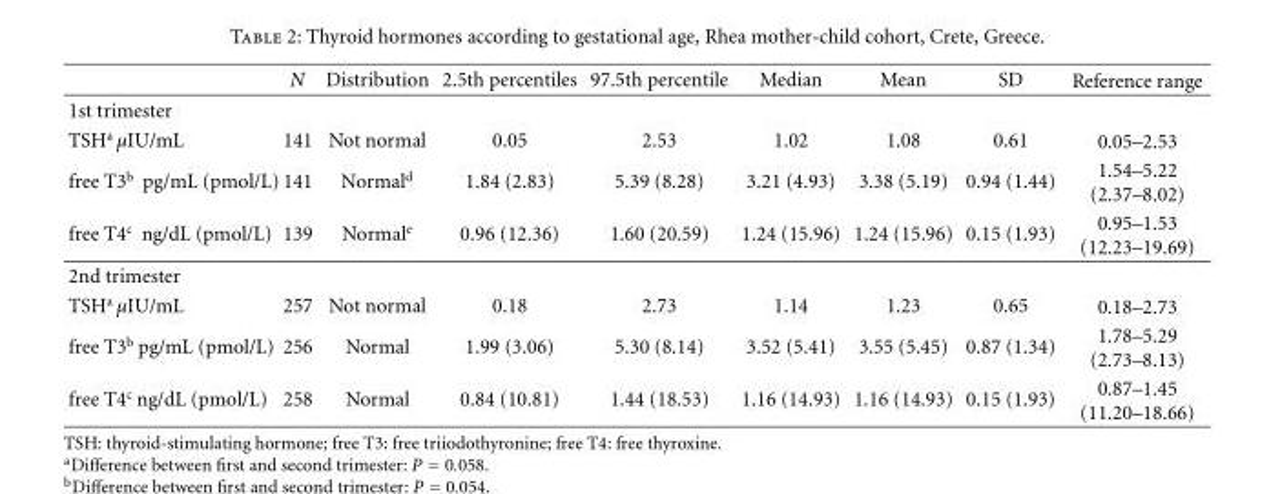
<table><thead><tr><td></td><td>N</td><td>Distribution</td><td>2.5th percentiles</td><td>97.5th percentile</td><td>Median</td><td>Mean</td><td>SD</td><td>Reference range</td></tr></thead><tbody><tr><td colspan="9">1st trimester</td></tr><tr><td>TSH<sup>a</sup> μIU/mL</td><td>141</td><td>Not normal</td><td>0.05</td><td>2.53</td><td>1.02</td><td>1.08</td><td>0.61</td><td>0.05–2.53</td></tr><tr><td>free T3<sup>b</sup> pg/mL (pmol/L)</td><td>141</td><td>Normal<sup>d</sup></td><td>1.84 (2.83)</td><td>5.39 (8.28)</td><td>3.21 (4.93)</td><td>3.38 (5.19)</td><td>0.94 (1.44)</td><td>1.54–5.22 (2.37–8.02)</td></tr><tr><td>free T4<sup>c</sup> ng/dL (pmol/L)</td><td>139</td><td>Normal<sup>e</sup></td><td>0.96 (12.36)</td><td>1.60 (20.59)</td><td>1.24 (15.96)</td><td>1.24 (15.96)</td><td>0.15 (1.93)</td><td>0.95–1.53 (12.23–19.69)</td></tr><tr><td colspan="9">2nd trimester</td></tr><tr><td>TSH<sup>a</sup> μIU/mL</td><td>257</td><td>Not normal</td><td>0.18</td><td>2.73</td><td>1.14</td><td>1.23</td><td>0.65</td><td>0.18–2.73</td></tr><tr><td>free T3<sup>b</sup> pg/mL (pmol/L)</td><td>256</td><td>Normal</td><td>1.99 (3.06)</td><td>5.30 (8.14)</td><td>3.52 (5.41)</td><td>3.55 (5.45)</td><td>0.87 (1.34)</td><td>1.78–5.29 (2.73–8.13)</td></tr><tr><td>free T4<sup>c</sup> ng/dL (pmol/L)</td><td>258</td><td>Normal</td><td>0.84 (10.81)</td><td>1.44 (18.53)</td><td>1.16 (14.93)</td><td>1.16 (14.93)</td><td>0.15 (1.93)</td><td>0.87–1.45 (11.20–18.66)</td></tr></tbody></table>